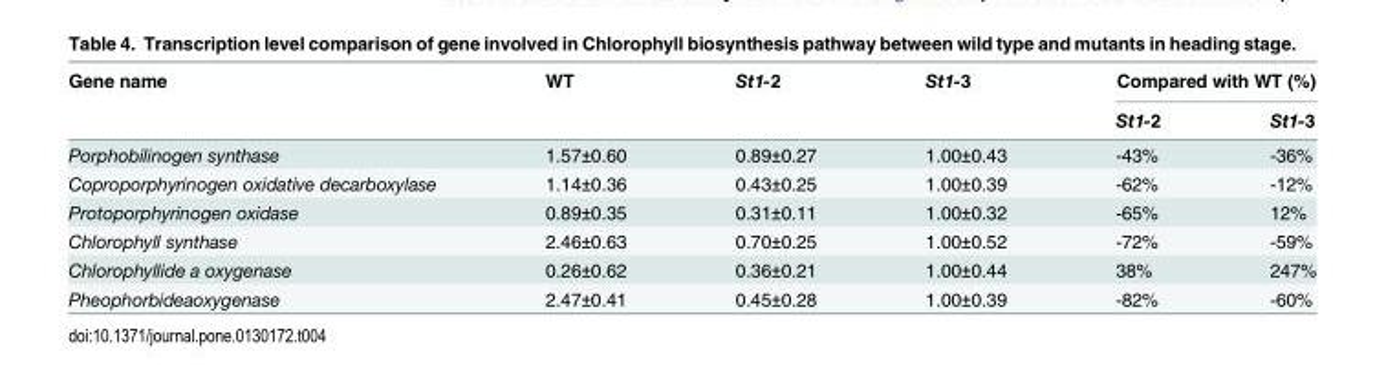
<table><thead><tr><td rowspan="2">Gene name</td><td rowspan="2">WT</td><td rowspan="2">St1-2</td><td rowspan="2">St1-3</td><td colspan="2">Compared with WT (%)</td></tr><tr><td>St1-2</td><td>St1-3</td></tr></thead><tbody><tr><td>Porphobilinogen synthase</td><td>1.57±0.60</td><td>0.89±0.27</td><td>1.00±0.43</td><td>-43%</td><td>-36%</td></tr><tr><td>Coproporphyrinogen oxidative decarboxylase</td><td>1.14±0.36</td><td>0.43±0.25</td><td>1.00±0.39</td><td>-62%</td><td>-12%</td></tr><tr><td>Protoporphyrinogen oxidase</td><td>0.89±0.35</td><td>0.31±0.11</td><td>1.00±0.32</td><td>-65%</td><td>12%</td></tr><tr><td>Chlorophyll synthase</td><td>2.46±0.63</td><td>0.70±0.25</td><td>1.00±0.52</td><td>-72%</td><td>-59%</td></tr><tr><td>Chlorophyllide a oxygenase</td><td>0.26±0.62</td><td>0.36±0.21</td><td>1.00±0.44</td><td>38%</td><td>247%</td></tr><tr><td>Pheophorbideaoxygenase</td><td>2.47±0.41</td><td>0.45±0.28</td><td>1.00±0.39</td><td>-82%</td><td>-60%</td></tr></tbody></table>